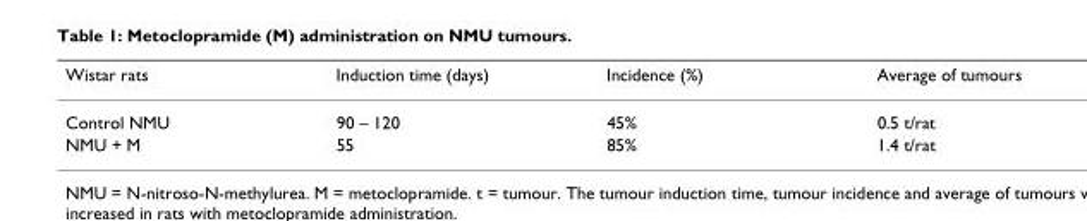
<table><thead><tr><td>Wistar rats</td><td>Induction time (days)</td><td>Incidence (%)</td><td>Average of tumours</td></tr></thead><tbody><tr><td>Control NMU</td><td>90 – 120</td><td>45%</td><td>0.5 t/rat</td></tr><tr><td>NMU + M</td><td>55</td><td>85%</td><td>1.4 t/rat</td></tr></tbody></table>